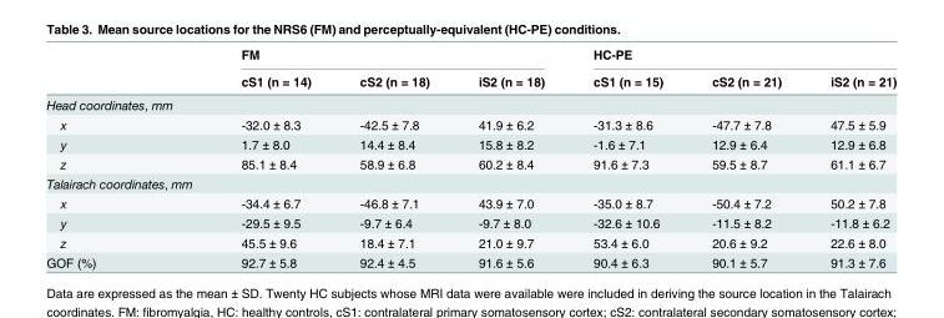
<table><thead><tr><td rowspan="2"></td><td colspan="3">FM</td><td colspan="3">HC-PE</td></tr><tr><td>cS1 (n = 14)</td><td>cS2 (n = 18)</td><td>iS2 (n = 18)</td><td>cS1 (n = 15)</td><td>cS2 (n = 21)</td><td>iS2 (n = 21)</td></tr></thead><tbody><tr><td colspan="7">Head coordinates, mm</td></tr><tr><td>x</td><td>-32.0 ± 8.3</td><td>-42.5 ± 7.8</td><td>41.9 ± 6.2</td><td>-31.3 ± 8.6</td><td>-47.7 ± 7.8</td><td>47.5 ± 5.9</td></tr><tr><td>y</td><td>1.7 ± 8.0</td><td>14.4 ± 8.4</td><td>15.8 ± 8.2</td><td>-1.6 ± 7.1</td><td>12.9 ± 6.4</td><td>12.9 ± 6.8</td></tr><tr><td>z</td><td>85.1 ± 8.4</td><td>58.9 ± 6.8</td><td>60.2 ± 8.4</td><td>91.6 ± 7.3</td><td>59.5 ± 8.7</td><td>61.1 ± 6.7</td></tr><tr><td colspan="7">Talairach coordinates, mm</td></tr><tr><td>x</td><td>-34.4 ± 6.7</td><td>-46.8 ± 7.1</td><td>43.9 ± 7.0</td><td>-35.0 ± 8.7</td><td>-50.4 ± 7.2</td><td>50.2 ± 7.8</td></tr><tr><td>y</td><td>-29.5 ± 9.5</td><td>-9.7 ± 6.4</td><td>-9.7 ± 8.0</td><td>-32.6 ± 10.6</td><td>-11.5 ± 8.2</td><td>-11.8 ± 6.2</td></tr><tr><td>z</td><td>45.5 ± 9.6</td><td>18.4 ± 7.1</td><td>21.0 ± 9.7</td><td>53.4 ± 6.0</td><td>20.6 ± 9.2</td><td>22.6 ± 8.0</td></tr><tr><td>GOF (%)</td><td>92.7 ± 5.8</td><td>92.4 ± 4.5</td><td>91.6 ± 5.6</td><td>90.4 ± 6.3</td><td>90.1 ± 5.7</td><td>91.3 ± 7.6</td></tr></tbody></table>